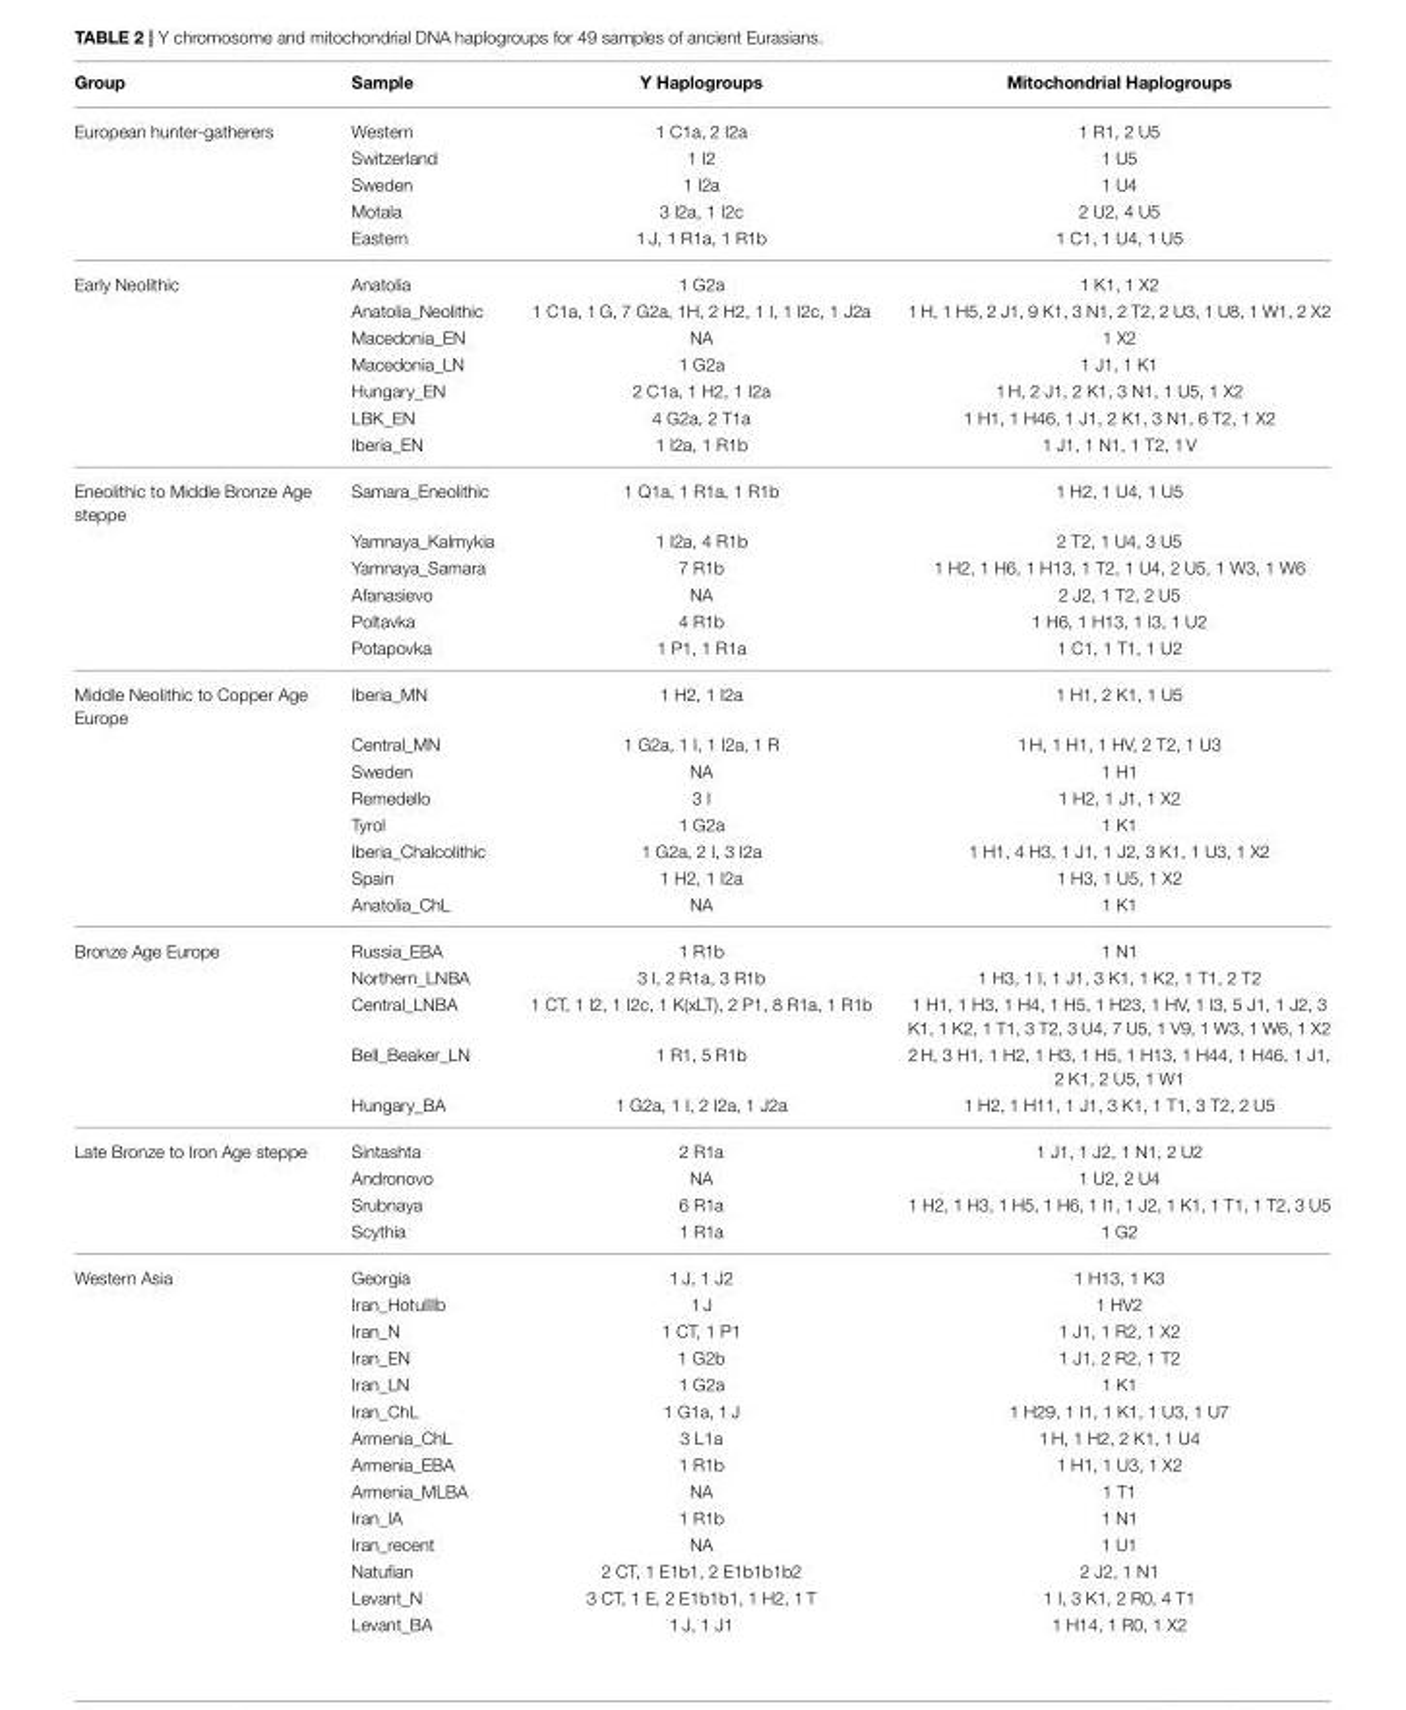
<table><thead><tr><td>Group</td><td>Sample</td><td>Y Haplogroups</td><td>Mitochondrial Haplogroups</td></tr></thead><tbody><tr><td rowspan="5">European hunter-gatherers</td><td>Western</td><td>1 C1a, 2 I2a</td><td>1 R1, 2 U5</td></tr><tr><td>Switzerland</td><td>1 I2</td><td>1 U5</td></tr><tr><td>Sweden</td><td>1 I2a</td><td>1 U4</td></tr><tr><td>Motala</td><td>3 I2a, 1 I2c</td><td>2 U2, 4 U5</td></tr><tr><td>Eastern</td><td>1 J, 1 R1a, 1 R1b</td><td>1 C1, 1 U4, 1 U5</td></tr><tr><td rowspan="7">Early Neolithic</td><td>Anatolia</td><td>1 G2a</td><td>1 K1, 1 X2</td></tr><tr><td>Anatolia_Neolithic</td><td>1 C1a, 1 G, 7 G2a, 1H, 2 H2, 1 I, 1 I2c, 1 J2a</td><td>1 H, 1 H5, 2 J1, 9 K1, 3 N1, 2 T2, 2 U3, 1 U8, 1 W1, 2 X2</td></tr><tr><td>Macedonia_EN</td><td>NA</td><td>1 X2</td></tr><tr><td>Macedonia_LN</td><td>1 G2a</td><td>1 J1, 1 K1</td></tr><tr><td>Hungary_EN</td><td>2 C1a, 1 H2, 1 I2a</td><td>1 H, 2 J1, 2 K1, 3 N1, 1 U5, 1 X2</td></tr><tr><td>LBK_EN</td><td>4 G2a, 2 T1a</td><td>1 H1, 1 H46, 1 J1, 2 K1, 3 N1, 6 T2, 1 X2</td></tr><tr><td>Iberia_EN</td><td>1 I2a, 1 R1b</td><td>1 J1, 1 N1, 1 T2, 1 V</td></tr><tr><td rowspan="6">Eneolithic to Middle Bronze Age steppe</td><td>Samara_Eneolithic</td><td>1 Q1a, 1 R1a, 1 R1b</td><td>1 H2, 1 U4, 1 U5</td></tr><tr><td>Yamnaya_Kalmykia</td><td>1 I2a, 4 R1b</td><td>2 T2, 1 U4, 3 U5</td></tr><tr><td>Yamnaya_Samara</td><td>7 R1b</td><td>1 H2, 1 H6, 1 H13, 1 T2, 1 U4, 2 U5, 1 W3, 1 W6</td></tr><tr><td>Afanasievo</td><td>NA</td><td>2 J2, 1 T2, 2 U5</td></tr><tr><td>Poltavka</td><td>4 R1b</td><td>1 H6, 1 H13, 1 I3, 1 U2</td></tr><tr><td>Potapovka</td><td>1 P1, 1 R1a</td><td>1 C1, 1 T1, 1 U2</td></tr><tr><td rowspan="8">Middle Neolithic to Copper Age Europe</td><td>Iberia_MN</td><td>1 H2, 1 I2a</td><td>1 H1, 2 K1, 1 U5</td></tr><tr><td>Central_MN</td><td>1 G2a, 1 I, 1 I2a, 1 R</td><td>1 H, 1 H1, 1 HV, 2 T2, 1 U3</td></tr><tr><td>Sweden</td><td>NA</td><td>1 H1</td></tr><tr><td>Remedello</td><td>3 I</td><td>1 H2, 1 J1, 1 X2</td></tr><tr><td>Tyrol</td><td>1 G2a</td><td>1 K1</td></tr><tr><td>Iberia_Chalcolithic</td><td>1 G2a, 2 I, 3 I2a</td><td>1 H1, 4 H3, 1 J1, 1 J2, 3 K1, 1 U3, 1 X2</td></tr><tr><td>Spain</td><td>1 H2, 1 I2a</td><td>1 H3, 1 U5, 1 X2</td></tr><tr><td>Anatolia_ChL</td><td>NA</td><td>1 K1</td></tr><tr><td rowspan="5">Bronze Age Europe</td><td>Russia_EBA</td><td>1 R1b</td><td>1 N1</td></tr><tr><td>Northern_LNBA</td><td>3 I, 2 R1a, 3 R1b</td><td>1 H3, 1 I, 1 J1, 3 K1, 1 K2, 1 T1, 2 T2</td></tr><tr><td>Central_LNBA</td><td>1 CT, 1 I2, 1 I2c, 1 K(xLT), 2 P1, 8 R1a, 1 R1b</td><td>1 H1, 1 H3, 1 H4, 1 H5, 1 H23, 1 HV, 1 I3, 5 J1, 1 J2, 3 K1, 1 K2, 1 T1, 3 T2, 3 U4, 7 U5, 1 V9, 1 W3, 1 W6, 1 X2</td></tr><tr><td>Bell_Beaker_LN</td><td>1 R1, 5 R1b</td><td>2 H, 3 H1, 1 H2, 1 H3, 1 H5, 1 H13, 1 H44, 1 H46, 1 J1, 2 K1, 2 U5, 1 W1</td></tr><tr><td>Hungary_BA</td><td>1 G2a, 1 I, 2 I2a, 1 J2a</td><td>1 H2, 1 H11, 1 J1, 3 K1, 1 T1, 3 T2, 2 U5</td></tr><tr><td rowspan="4">Late Bronze to Iron Age steppe</td><td>Sintashta</td><td>2 R1a</td><td>1 J1, 1 J2, 1 N1, 2 U2</td></tr><tr><td>Andronovo</td><td>NA</td><td>1 U2, 2 U4</td></tr><tr><td>Srubnaya</td><td>6 R1a</td><td>1 H2, 1 H3, 1 H5, 1 H6, 1 I1, 1 J2, 1 K1, 1 T1, 1 T2, 3 U5</td></tr><tr><td>Scythia</td><td>1 R1a</td><td>1 G2</td></tr><tr><td rowspan="14">Western Asia</td><td>Georgia</td><td>1 J, 1 J2</td><td>1 H13, 1 K3</td></tr><tr><td>Iran_HotuIIIb</td><td>1 J</td><td>1 HV2</td></tr><tr><td>Iran_N</td><td>1 CT, 1 P1</td><td>1 J1, 1 R2, 1 X2</td></tr><tr><td>Iran_EN</td><td>1 G2b</td><td>1 J1, 2 R2, 1 T2</td></tr><tr><td>Iran_LN</td><td>1 G2a</td><td>1 K1</td></tr><tr><td>Iran_ChL</td><td>1 G1a, 1 J</td><td>1 H29, 1 I1, 1 K1, 1 U3, 1 U7</td></tr><tr><td>Armenia_ChL</td><td>3 L1a</td><td>1 H, 1 H2, 2 K1, 1 U4</td></tr><tr><td>Armenia_EBA</td><td>1 R1b</td><td>1 H1, 1 U3, 1 X2</td></tr><tr><td>Armenia_MLBA</td><td>NA</td><td>1 T1</td></tr><tr><td>Iran_IA</td><td>1 R1b</td><td>1 N1</td></tr><tr><td>Iran_recent</td><td>NA</td><td>1 U1</td></tr><tr><td>Natufian</td><td>2 CT, 1 E1b1, 2 E1b1b1b2</td><td>2 J2, 1 N1</td></tr><tr><td>Levant_N</td><td>3 CT, 1 E, 2 E1b1b1, 1 H2, 1 T</td><td>1 I, 3 K1, 2 R0, 4 T1</td></tr><tr><td>Levant_BA</td><td>1 J, 1 J1</td><td>1 H14, 1 R0, 1 X2</td></tr></tbody></table>